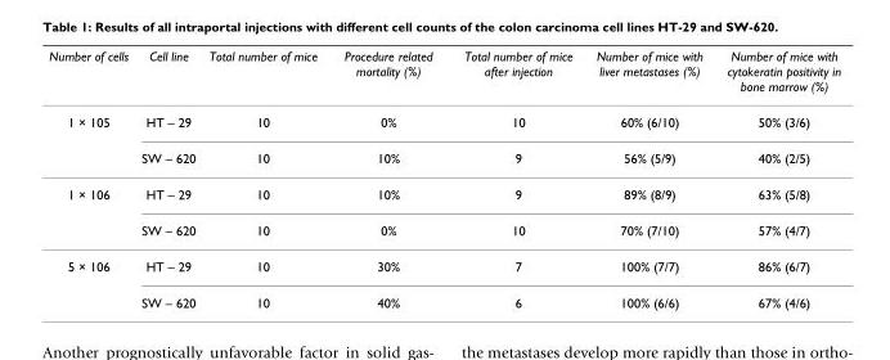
<table><thead><tr><td>Number of cells</td><td>Cell line</td><td>Total number of mice</td><td>Procedure related mortality (%)</td><td>Total number of mice after injection</td><td>Number of mice with liver metastases (%)</td><td>Number of mice with cytokeratin positivity in bone marrow (%)</td></tr></thead><tbody><tr><td rowspan="2">1 × 105</td><td>HT – 29</td><td>10</td><td>0%</td><td>10</td><td>60% (6/10)</td><td>50% (3/6)</td></tr><tr><td>SW – 620</td><td>10</td><td>10%</td><td>9</td><td>56% (5/9)</td><td>40% (2/5)</td></tr><tr><td rowspan="2">1 × 106</td><td>HT – 29</td><td>10</td><td>10%</td><td>9</td><td>89% (8/9)</td><td>63% (5/8)</td></tr><tr><td>SW – 620</td><td>10</td><td>0%</td><td>10</td><td>70% (7/10)</td><td>57% (4/7)</td></tr><tr><td rowspan="2">5 × 106</td><td>HT – 29</td><td>10</td><td>30%</td><td>7</td><td>100% (7/7)</td><td>86% (6/7)</td></tr><tr><td>SW – 620</td><td>10</td><td>40%</td><td>6</td><td>100% (6/6)</td><td>67% (4/6)</td></tr></tbody></table>